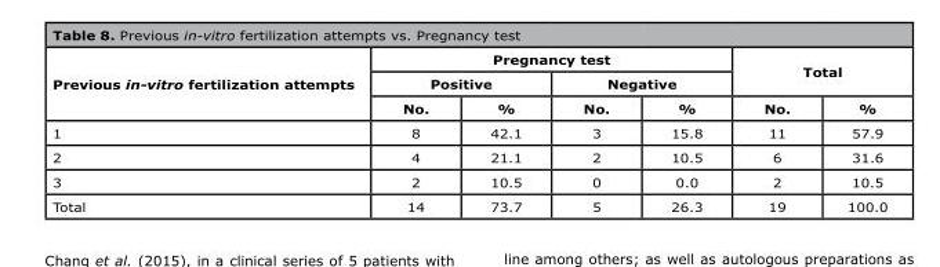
<table><thead><tr><td rowspan="3">Previous in-vitro fertilization attempts</td><td colspan="4">Pregnancy test</td><td rowspan="2" colspan="2">Total</td></tr><tr><td colspan="2">Positive</td><td colspan="2">Negative</td></tr><tr><td>No.</td><td>%</td><td>No.</td><td>%</td><td>No.</td><td>%</td></tr></thead><tbody><tr><td>1</td><td>8</td><td>42.1</td><td>3</td><td>15.8</td><td>11</td><td>57.9</td></tr><tr><td>2</td><td>4</td><td>21.1</td><td>2</td><td>10.5</td><td>6</td><td>31.6</td></tr><tr><td>3</td><td>2</td><td>10.5</td><td>0</td><td>0.0</td><td>2</td><td>10.5</td></tr><tr><td>Total</td><td>14</td><td>73.7</td><td>5</td><td>26.3</td><td>19</td><td>100.0</td></tr></tbody></table>